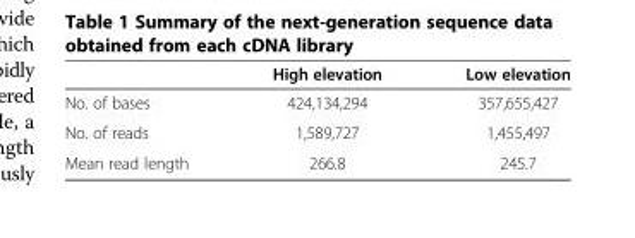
<table><thead><tr><td></td><td>High elevation</td><td>Low elevation</td></tr></thead><tbody><tr><td>No. of bases</td><td>424,134,294</td><td>357,655,427</td></tr><tr><td>No. of reads</td><td>1,589,727</td><td>1,455,497</td></tr><tr><td>Mean read length</td><td>266.8</td><td>245.7</td></tr></tbody></table>